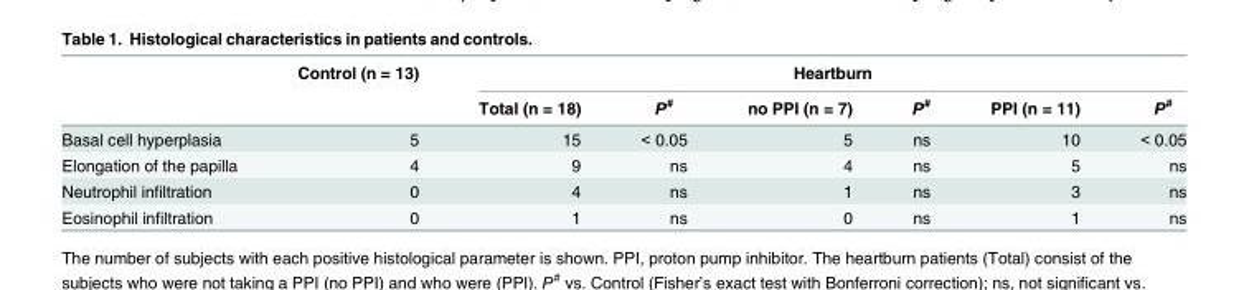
<table><thead><tr><td rowspan="2"></td><td rowspan="2">Control (n = 13)</td><td colspan="6">Heartburn</td></tr><tr><td>Total (n = 18)</td><td>P<sup>#</sup></td><td>no PPI (n = 7)</td><td>P<sup>#</sup></td><td>PPI (n = 11)</td><td>P<sup>#</sup></td></tr></thead><tbody><tr><td>Basal cell hyperplasia</td><td>5</td><td>15</td><td>&lt; 0.05</td><td>5</td><td>ns</td><td>10</td><td>&lt; 0.05</td></tr><tr><td>Elongation of the papilla</td><td>4</td><td>9</td><td>ns</td><td>4</td><td>ns</td><td>5</td><td>ns</td></tr><tr><td>Neutrophil infiltration</td><td>0</td><td>4</td><td>ns</td><td>1</td><td>ns</td><td>3</td><td>ns</td></tr><tr><td>Eosinophil infiltration</td><td>0</td><td>1</td><td>ns</td><td>0</td><td>ns</td><td>1</td><td>ns</td></tr></tbody></table>